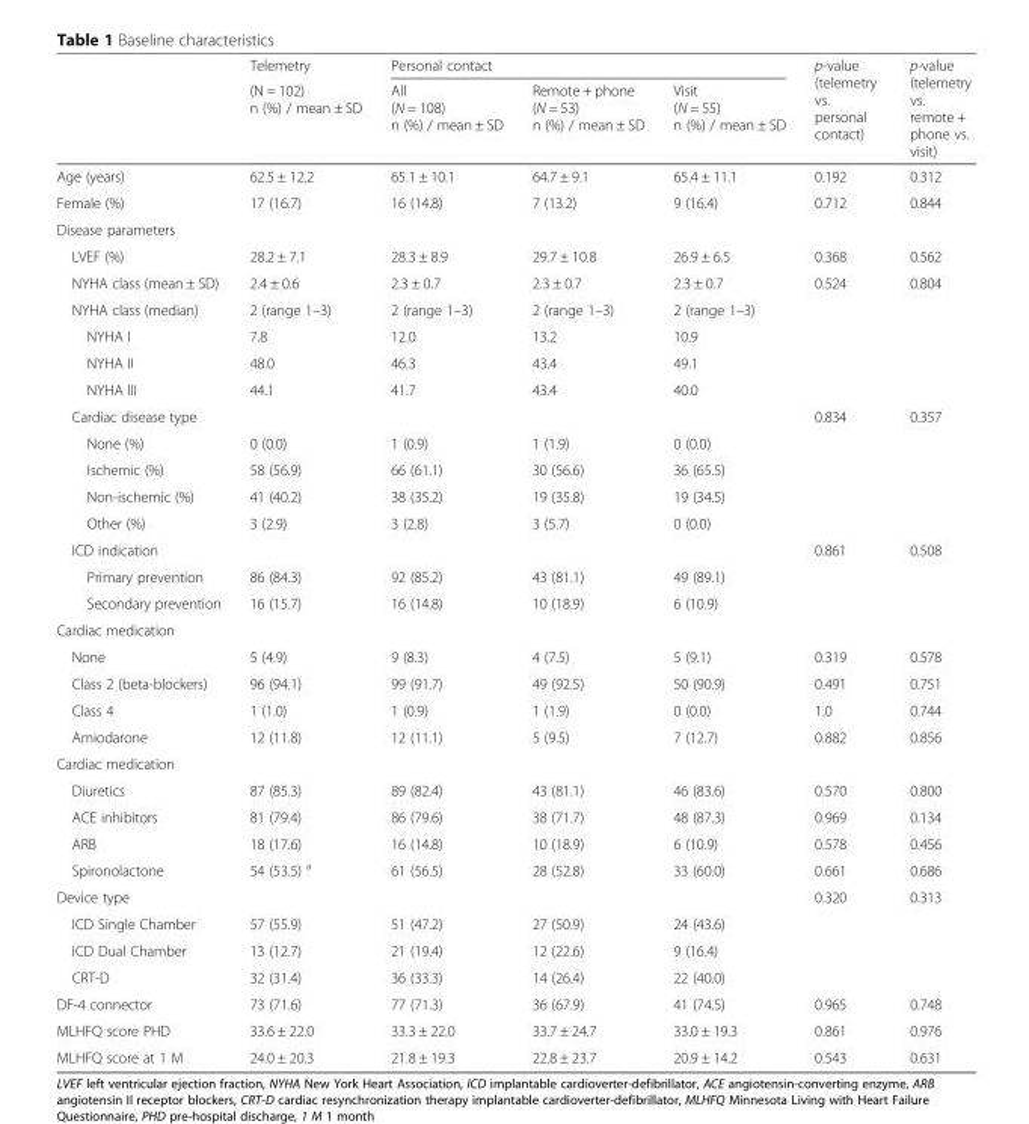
<table><thead><tr><td rowspan="2"></td><td rowspan="2">Telemetry (N = 102) n (%) / mean ± SD</td><td colspan="3">Personal contact</td><td rowspan="2">p-value (telemetry vs. personal contact)</td><td rowspan="2">p-value (telemetry vs. remote + phone vs. visit)</td></tr><tr><td>All (N = 108) n (%) / mean ± SD</td><td>Remote + phone (N = 53) n (%) / mean ± SD</td><td>Visit (N = 55) n (%) / mean ± SD</td></tr></thead><tbody><tr><td>Age (years)</td><td>62.5 ± 12.2</td><td>65.1 ± 10.1</td><td>64.7 ± 9.1</td><td>65.4 ± 11.1</td><td>0.192</td><td>0.312</td></tr><tr><td>Female (%)</td><td>17 (16.7)</td><td>16 (14.8)</td><td>7 (13.2)</td><td>9 (16.4)</td><td>0.712</td><td>0.844</td></tr><tr><td colspan="7">Disease parameters</td></tr><tr><td>LVEF (%)</td><td>28.2 ± 7.1</td><td>28.3 ± 8.9</td><td>29.7 ± 10.8</td><td>26.9 ± 6.5</td><td>0.368</td><td>0.562</td></tr><tr><td>NYHA class (mean ± SD)</td><td>2.4 ± 0.6</td><td>2.3 ± 0.7</td><td>2.3 ± 0.7</td><td>2.3 ± 0.7</td><td>0.524</td><td>0.804</td></tr><tr><td>NYHA class (median)</td><td>2 (range 1–3)</td><td>2 (range 1–3)</td><td>2 (range 1–3)</td><td>2 (range 1–3)</td><td></td><td></td></tr><tr><td>NYHA I</td><td>7.8</td><td>12.0</td><td>13.2</td><td>10.9</td><td></td><td></td></tr><tr><td>NYHA II</td><td>48.0</td><td>46.3</td><td>43.4</td><td>49.1</td><td></td><td></td></tr><tr><td>NYHA III</td><td>44.1</td><td>41.7</td><td>43.4</td><td>40.0</td><td></td><td></td></tr><tr><td>Cardiac disease type</td><td></td><td></td><td></td><td></td><td>0.834</td><td>0.357</td></tr><tr><td>None (%)</td><td>0 (0.0)</td><td>1 (0.9)</td><td>1 (1.9)</td><td>0 (0.0)</td><td></td><td></td></tr><tr><td>Ischemic (%)</td><td>58 (56.9)</td><td>66 (61.1)</td><td>30 (56.6)</td><td>36 (65.5)</td><td></td><td></td></tr><tr><td>Non-ischemic (%)</td><td>41 (40.2)</td><td>38 (35.2)</td><td>19 (35.8)</td><td>19 (34.5)</td><td></td><td></td></tr><tr><td>Other (%)</td><td>3 (2.9)</td><td>3 (2.8)</td><td>3 (5.7)</td><td>0 (0.0)</td><td></td><td></td></tr><tr><td>ICD indication</td><td></td><td></td><td></td><td></td><td>0.861</td><td>0.508</td></tr><tr><td>Primary prevention</td><td>86 (84.3)</td><td>92 (85.2)</td><td>43 (81.1)</td><td>49 (89.1)</td><td></td><td></td></tr><tr><td>Secondary prevention</td><td>16 (15.7)</td><td>16 (14.8)</td><td>10 (18.9)</td><td>6 (10.9)</td><td></td><td></td></tr><tr><td colspan="7">Cardiac medication</td></tr><tr><td>None</td><td>5 (4.9)</td><td>9 (8.3)</td><td>4 (7.5)</td><td>5 (9.1)</td><td>0.319</td><td>0.578</td></tr><tr><td>Class 2 (beta-blockers)</td><td>96 (94.1)</td><td>99 (91.7)</td><td>49 (92.5)</td><td>50 (90.9)</td><td>0.491</td><td>0.751</td></tr><tr><td>Class 4</td><td>1 (1.0)</td><td>1 (0.9)</td><td>1 (1.9)</td><td>0 (0.0)</td><td>1.0</td><td>0.744</td></tr><tr><td>Amiodarone</td><td>12 (11.8)</td><td>12 (11.1)</td><td>5 (9.5)</td><td>7 (12.7)</td><td>0.882</td><td>0.856</td></tr><tr><td colspan="7">Cardiac medication</td></tr><tr><td>Diuretics</td><td>87 (85.3)</td><td>89 (82.4)</td><td>43 (81.1)</td><td>46 (83.6)</td><td>0.570</td><td>0.800</td></tr><tr><td>ACE inhibitors</td><td>81 (79.4)</td><td>86 (79.6)</td><td>38 (71.7)</td><td>48 (87.3)</td><td>0.969</td><td>0.134</td></tr><tr><td>ARB</td><td>18 (17.6)</td><td>16 (14.8)</td><td>10 (18.9)</td><td>6 (10.9)</td><td>0.578</td><td>0.456</td></tr><tr><td>Spironolactone</td><td>54 (53.5) <sup>a</sup></td><td>61 (56.5)</td><td>28 (52.8)</td><td>33 (60.0)</td><td>0.661</td><td>0.686</td></tr><tr><td>Device type</td><td></td><td></td><td></td><td></td><td>0.320</td><td>0.313</td></tr><tr><td>ICD Single Chamber</td><td>57 (55.9)</td><td>51 (47.2)</td><td>27 (50.9)</td><td>24 (43.6)</td><td></td><td></td></tr><tr><td>ICD Dual Chamber</td><td>13 (12.7)</td><td>21 (19.4)</td><td>12 (22.6)</td><td>9 (16.4)</td><td></td><td></td></tr><tr><td>CRT-D</td><td>32 (31.4)</td><td>36 (33.3)</td><td>14 (26.4)</td><td>22 (40.0)</td><td></td><td></td></tr><tr><td>DF-4 connector</td><td>73 (71.6)</td><td>77 (71.3)</td><td>36 (67.9)</td><td>41 (74.5)</td><td>0.965</td><td>0.748</td></tr><tr><td>MLHFQ score PHD</td><td>33.6 ± 22.0</td><td>33.3 ± 22.0</td><td>33.7 ± 24.7</td><td>33.0 ± 19.3</td><td>0.861</td><td>0.976</td></tr><tr><td>MLHFQ score at 1 M</td><td>24.0 ± 20.3</td><td>21.8 ± 19.3</td><td>22.8 ± 23.7</td><td>20.9 ± 14.2</td><td>0.543</td><td>0.631</td></tr></tbody></table>